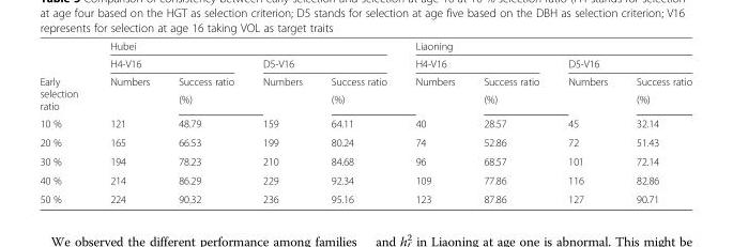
<table><thead><tr><td rowspan="4">Early selection ratio</td><td colspan="4">Hubei</td><td colspan="4">Liaoning</td></tr><tr><td colspan="2">H4-V16</td><td colspan="2">D5-V16</td><td colspan="2">H4-V16</td><td colspan="2">D5-V16</td></tr><tr><td rowspan="2">Numbers</td><td rowspan="2">Success ratio (%)</td><td rowspan="2">Numbers</td><td rowspan="2">Success ratio (%)</td><td rowspan="2">Numbers</td><td rowspan="2">Success ratio (%)</td><td rowspan="2">Numbers</td><td rowspan="2">Success ratio (%)</td></tr><tr></tr></thead><tbody><tr><td>10 %</td><td>121</td><td>48.79</td><td>159</td><td>64.11</td><td>40</td><td>28.57</td><td>45</td><td>32.14</td></tr><tr><td>20 %</td><td>165</td><td>66.53</td><td>199</td><td>80.24</td><td>74</td><td>52.86</td><td>72</td><td>51.43</td></tr><tr><td>30 %</td><td>194</td><td>78.23</td><td>210</td><td>84.68</td><td>96</td><td>68.57</td><td>101</td><td>72.14</td></tr><tr><td>40 %</td><td>214</td><td>86.29</td><td>229</td><td>92.34</td><td>109</td><td>77.86</td><td>116</td><td>82.86</td></tr><tr><td>50 %</td><td>224</td><td>90.32</td><td>236</td><td>95.16</td><td>123</td><td>87.86</td><td>127</td><td>90.71</td></tr></tbody></table>